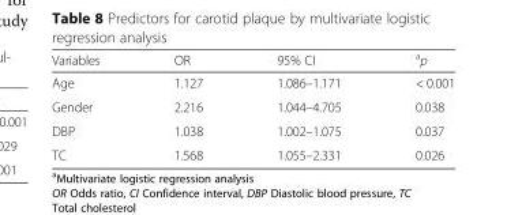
<table><thead><tr><td>Variables</td><td>OR</td><td>95% CI</td><td><sup>a</sup>p</td></tr></thead><tbody><tr><td>Age</td><td>1.127</td><td>1.086–1.171</td><td>&lt; 0.001</td></tr><tr><td>Gender</td><td>2.216</td><td>1.044–4.705</td><td>0.038</td></tr><tr><td>DBP</td><td>1.038</td><td>1.002–1.075</td><td>0.037</td></tr><tr><td>TC</td><td>1.568</td><td>1.055–2.331</td><td>0.026</td></tr></tbody></table>